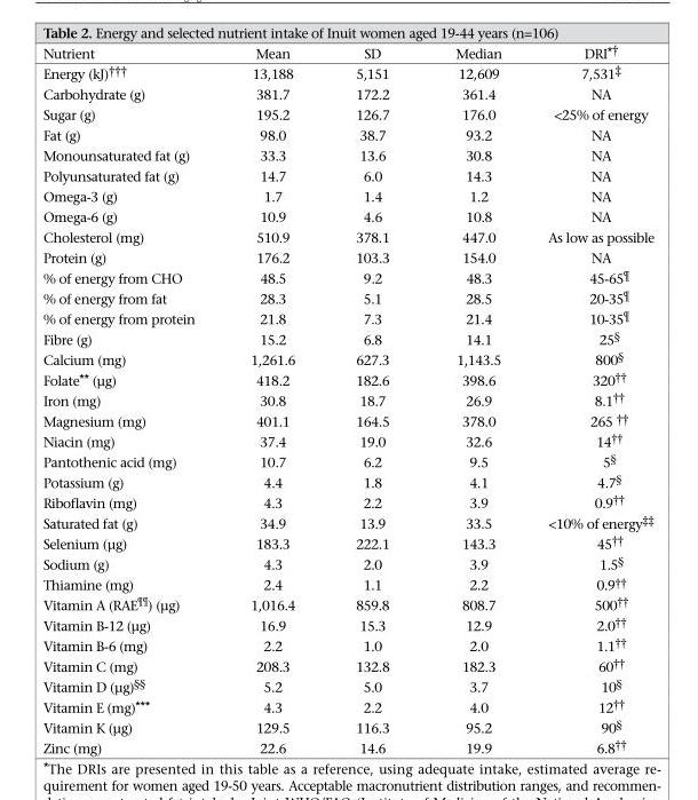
<table><thead><tr><td>Nutrient</td><td>Mean</td><td>SD</td><td>Median</td><td>DRI*†</td></tr></thead><tbody><tr><td>Energy (kJ)†††</td><td>13,188</td><td>5,151</td><td>12,609</td><td>7,531‡</td></tr><tr><td>Carbohydrate (g)</td><td>381.7</td><td>172.2</td><td>361.4</td><td>NA</td></tr><tr><td>Sugar (g)</td><td>195.2</td><td>126.7</td><td>176.0</td><td>&lt;25% of energy</td></tr><tr><td>Fat (g)</td><td>98.0</td><td>38.7</td><td>93.2</td><td>NA</td></tr><tr><td>Monounsaturated fat (g)</td><td>33.3</td><td>13.6</td><td>30.8</td><td>NA</td></tr><tr><td>Polyunsaturated fat (g)</td><td>14.7</td><td>6.0</td><td>14.3</td><td>NA</td></tr><tr><td>Omega-3 (g)</td><td>1.7</td><td>1.4</td><td>1.2</td><td>NA</td></tr><tr><td>Omega-6 (g)</td><td>10.9</td><td>4.6</td><td>10.8</td><td>NA</td></tr><tr><td>Cholesterol (mg)</td><td>510.9</td><td>378.1</td><td>447.0</td><td>As low as possible</td></tr><tr><td>Protein (g)</td><td>176.2</td><td>103.3</td><td>154.0</td><td>NA</td></tr><tr><td>% of energy from CHO</td><td>48.5</td><td>9.2</td><td>48.3</td><td>45-65¶</td></tr><tr><td>% of energy from fat</td><td>28.3</td><td>5.1</td><td>28.5</td><td>20-35¶</td></tr><tr><td>% of energy from protein</td><td>21.8</td><td>7.3</td><td>21.4</td><td>10-35¶</td></tr><tr><td>Fibre (g)</td><td>15.2</td><td>6.8</td><td>14.1</td><td>25§</td></tr><tr><td>Calcium (mg)</td><td>1,261.6</td><td>627.3</td><td>1,143.5</td><td>800§</td></tr><tr><td>Folate** (µg)</td><td>418.2</td><td>182.6</td><td>398.6</td><td>320††</td></tr><tr><td>Iron (mg)</td><td>30.8</td><td>18.7</td><td>26.9</td><td>8.1††</td></tr><tr><td>Magnesium (mg)</td><td>401.1</td><td>164.5</td><td>378.0</td><td>265 ††</td></tr><tr><td>Niacin (mg)</td><td>37.4</td><td>19.0</td><td>32.6</td><td>14††</td></tr><tr><td>Pantothenic acid (mg)</td><td>10.7</td><td>6.2</td><td>9.5</td><td>5§</td></tr><tr><td>Potassium (g)</td><td>4.4</td><td>1.8</td><td>4.1</td><td>4.7§</td></tr><tr><td>Riboflavin (mg)</td><td>4.3</td><td>2.2</td><td>3.9</td><td>0.9††</td></tr><tr><td>Saturated fat (g)</td><td>34.9</td><td>13.9</td><td>33.5</td><td>&lt;10% of energy‡‡</td></tr><tr><td>Selenium (µg)</td><td>183.3</td><td>222.1</td><td>143.3</td><td>45††</td></tr><tr><td>Sodium (g)</td><td>4.3</td><td>2.0</td><td>3.9</td><td>1.5§</td></tr><tr><td>Thiamine (mg)</td><td>2.4</td><td>1.1</td><td>2.2</td><td>0.9††</td></tr><tr><td>Vitamin A (RAE¶¶) (µg)</td><td>1,016.4</td><td>859.8</td><td>808.7</td><td>500††</td></tr><tr><td>Vitamin B-12 (µg)</td><td>16.9</td><td>15.3</td><td>12.9</td><td>2.0††</td></tr><tr><td>Vitamin B-6 (mg)</td><td>2.2</td><td>1.0</td><td>2.0</td><td>1.1††</td></tr><tr><td>Vitamin C (mg)</td><td>208.3</td><td>132.8</td><td>182.3</td><td>60††</td></tr><tr><td>Vitamin D (µg)§§</td><td>5.2</td><td>5.0</td><td>3.7</td><td>10§</td></tr><tr><td>Vitamin E (mg)***</td><td>4.3</td><td>2.2</td><td>4.0</td><td>12††</td></tr><tr><td>Vitamin K (µg)</td><td>129.5</td><td>116.3</td><td>95.2</td><td>90§</td></tr><tr><td>Zinc (mg)</td><td>22.6</td><td>14.6</td><td>19.9</td><td>6.8††</td></tr></tbody></table>